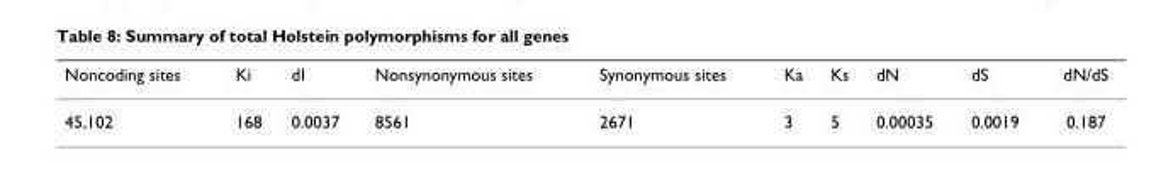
<table><thead><tr><td>Noncoding sites</td><td>Ki</td><td>dI</td><td>Nonsynonymous sites</td><td>Synonymous sites</td><td>Ka</td><td>Ks</td><td>dN</td><td>dS</td><td>dN/dS</td></tr></thead><tbody><tr><td>45,102</td><td>168</td><td>0.0037</td><td>8561</td><td>2671</td><td>3</td><td>5</td><td>0.00035</td><td>0.0019</td><td>0.187</td></tr></tbody></table>